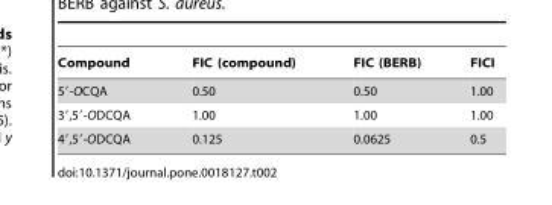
<table><thead><tr><td>Compound</td><td>FIC (compound)</td><td>FIC (BERB)</td><td>FICI</td></tr></thead><tbody><tr><td>5′-OCQA</td><td>0.50</td><td>0.50</td><td>1.00</td></tr><tr><td>3′,5′-ODCQA</td><td>1.00</td><td>1.00</td><td>1.00</td></tr><tr><td>4′,5′-ODCQA</td><td>0.125</td><td>0.0625</td><td>0.5</td></tr></tbody></table>